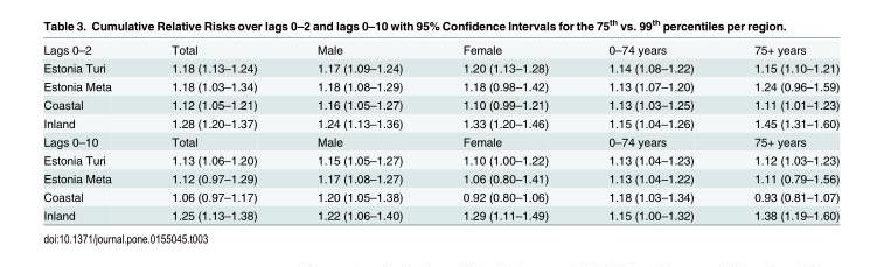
<table><tbody><tr><td>Lags 0–2</td><td>Total</td><td>Male</td><td>Female</td><td>0–74 years</td><td>75+ years</td></tr><tr><td>Estonia Turi</td><td>1.18 (1.13–1.24)</td><td>1.17 (1.09–1.24)</td><td>1.20 (1.13–1.28)</td><td>1.14 (1.08–1.22)</td><td>1.15 (1.10–1.21)</td></tr><tr><td>Estonia Meta</td><td>1.18 (1.03–1.34)</td><td>1.18 (1.08–1.29)</td><td>1.18 (0.98–1.42)</td><td>1.13 (1.07–1.20)</td><td>1.24 (0.96–1.59)</td></tr><tr><td>Coastal</td><td>1.12 (1.05–1.21)</td><td>1.16 (1.05–1.27)</td><td>1.10 (0.99–1.21)</td><td>1.13 (1.03–1.25)</td><td>1.11 (1.01–1.23)</td></tr><tr><td>Inland</td><td>1.28 (1.20–1.37)</td><td>1.24 (1.13–1.36)</td><td>1.33 (1.20–1.46)</td><td>1.15 (1.04–1.26)</td><td>1.45 (1.31–1.60)</td></tr><tr><td>Lags 0–10</td><td>Total</td><td>Male</td><td>Female</td><td>0–74 years</td><td>75+ years</td></tr><tr><td>Estonia Turi</td><td>1.13 (1.06–1.20)</td><td>1.15 (1.05–1.27)</td><td>1.10 (1.00–1.22)</td><td>1.13 (1.04–1.23)</td><td>1.12 (1.03–1.23)</td></tr><tr><td>Estonia Meta</td><td>1.12 (0.97–1.29)</td><td>1.17 (1.08–1.27)</td><td>1.06 (0.80–1.41)</td><td>1.13 (1.04–1.22)</td><td>1.11 (0.79–1.56)</td></tr><tr><td>Coastal</td><td>1.06 (0.97–1.17)</td><td>1.20 (1.05–1.38)</td><td>0.92 (0.80–1.06)</td><td>1.18 (1.03–1.34)</td><td>0.93 (0.81–1.07)</td></tr><tr><td>Inland</td><td>1.25 (1.13–1.38)</td><td>1.22 (1.06–1.40)</td><td>1.29 (1.11–1.49)</td><td>1.15 (1.00–1.32)</td><td>1.38 (1.19–1.60)</td></tr></tbody></table>